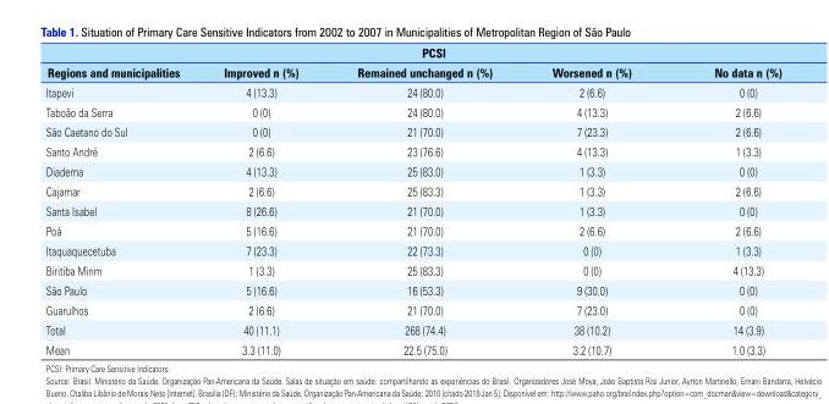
<table><thead><tr><td colspan="5">PCSI</td></tr><tr><td>Regions and municipalities</td><td>Improved n (%)</td><td>Remained unchanged n (%)</td><td>Worsened n (%)</td><td>No data n (%)</td></tr></thead><tbody><tr><td>Itapevi</td><td>4 (13.3)</td><td>24 (80.0)</td><td>2 (6.6)</td><td>0 (0)</td></tr><tr><td>Taboão da Serra</td><td>0 (0)</td><td>24 (80.0)</td><td>4 (13.3)</td><td>2 (6.6)</td></tr><tr><td>São Caetano do Sul</td><td>0 (0)</td><td>21 (70.0)</td><td>7 (23.3)</td><td>2 (6.6)</td></tr><tr><td>Santo André</td><td>2 (6.6)</td><td>23 (76.6)</td><td>4 (13.3)</td><td>1 (3.3)</td></tr><tr><td>Diadema</td><td>4 (13.3)</td><td>25 (83.0)</td><td>1 (3.3)</td><td>0 (0)</td></tr><tr><td>Cajamar</td><td>2 (6.6)</td><td>25 (83.3)</td><td>1 (3.3)</td><td>2 (6.6)</td></tr><tr><td>Santa Isabel</td><td>8 (26.6)</td><td>21 (70.0)</td><td>1 (3.3)</td><td>0 (0)</td></tr><tr><td>Poá</td><td>5 (16.6)</td><td>21 (70.0)</td><td>2 (6.6)</td><td>2 (6.6)</td></tr><tr><td>Itaquaquecetuba</td><td>7 (23.3)</td><td>22 (73.3)</td><td>0 (0)</td><td>1 (3.3)</td></tr><tr><td>Biritiba Mirim</td><td>1 (3.3)</td><td>25 (83.3)</td><td>0 (0)</td><td>4 (13.3)</td></tr><tr><td>São Paulo</td><td>5 (16.6)</td><td>16 (53.3)</td><td>9 (30.0)</td><td>0 (0)</td></tr><tr><td>Guarulhos</td><td>2 (6.6)</td><td>21 (70.0)</td><td>7 (23.0)</td><td>0 (0)</td></tr><tr><td>Total</td><td>40 (11.1)</td><td>268 (74.4)</td><td>38 (10.2)</td><td>14 (3.9)</td></tr><tr><td>Mean</td><td>3.3 (11.0)</td><td>22.5 (75.0)</td><td>3.2 (10.7)</td><td>1.0 (3.3)</td></tr></tbody></table>